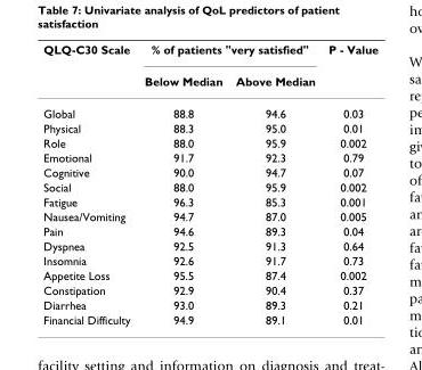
<table><thead><tr><td rowspan="2">QLQ-C30 Scale</td><td colspan="2">% of patients &quot;very satisfied&quot;</td><td rowspan="2">P - Value</td></tr><tr><td>Below Median</td><td>Above Median</td></tr></thead><tbody><tr><td>Global</td><td>88.8</td><td>94.6</td><td>0.03</td></tr><tr><td>Physical</td><td>88.3</td><td>95.0</td><td>0.01</td></tr><tr><td>Role</td><td>88.0</td><td>95.9</td><td>0.002</td></tr><tr><td>Emotional</td><td>91.7</td><td>92.3</td><td>0.79</td></tr><tr><td>Cognitive</td><td>90.0</td><td>94.7</td><td>0.07</td></tr><tr><td>Social</td><td>88.0</td><td>95.9</td><td>0.002</td></tr><tr><td>Fatigue</td><td>96.3</td><td>85.3</td><td>0.001</td></tr><tr><td>Nausea/Vomiting</td><td>94.7</td><td>87.0</td><td>0.005</td></tr><tr><td>Pain</td><td>94.6</td><td>89.3</td><td>0.04</td></tr><tr><td>Dyspnea</td><td>92.5</td><td>91.3</td><td>0.64</td></tr><tr><td>Insomnia</td><td>92.6</td><td>91.7</td><td>0.73</td></tr><tr><td>Appetite Loss</td><td>95.5</td><td>87.4</td><td>0.002</td></tr><tr><td>Constipation</td><td>92.9</td><td>90.4</td><td>0.37</td></tr><tr><td>Diarrhea</td><td>93.0</td><td>89.3</td><td>0.21</td></tr><tr><td>Financial Difficulty</td><td>94.9</td><td>89.1</td><td>0.01</td></tr></tbody></table>